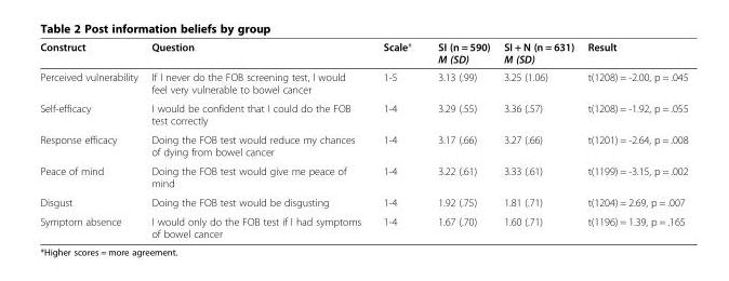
<table><thead><tr><td>Construct</td><td>Question</td><td>Scale*</td><td>SI (n = 590) M (SD)</td><td>SI + N (n = 631) M (SD)</td><td>Result</td></tr></thead><tbody><tr><td>Perceived vulnerability</td><td>If I never do the FOB screening test, I would feel very vulnerable to bowel cancer</td><td>1-5</td><td>3.13 (.99)</td><td>3.25 (1.06)</td><td>t(1208) = -2.00, p = .045</td></tr><tr><td>Self-efficacy</td><td>I would be confident that I could do the FOB test correctly</td><td>1-4</td><td>3.29 (.55)</td><td>3.36 (.57)</td><td>t(1208) = -1.92, p = .055</td></tr><tr><td>Response efficacy</td><td>Doing the FOB test would reduce my chances of dying from bowel cancer</td><td>1-4</td><td>3.17 (.66)</td><td>3.27 (.66)</td><td>t(1201) = -2.64, p = .008</td></tr><tr><td>Peace of mind</td><td>Doing the FOB test would give me peace of mind</td><td>1-4</td><td>3.22 (.61)</td><td>3.33 (.61)</td><td>t(1199) = -3.15, p = .002</td></tr><tr><td>Disgust</td><td>Doing the FOB test would be disgusting</td><td>1-4</td><td>1.92 (.75)</td><td>1.81 (.71)</td><td>t(1204) = 2.69, p = .007</td></tr><tr><td>Symptom absence</td><td>I would only do the FOB test if I had symptoms of bowel cancer</td><td>1-4</td><td>1.67 (.70)</td><td>1.60 (.71)</td><td>t(1196) = 1.39, p = .165</td></tr></tbody></table>